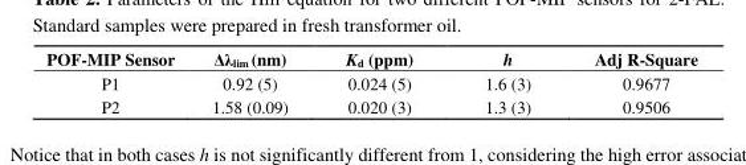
<table><thead><tr><td>POF-MIP Sensor</td><td>Δλ<sub>lim</sub> (nm)</td><td>Kd (ppm)</td><td>h</td><td>Adj R-Square</td></tr></thead><tbody><tr><td>P1</td><td>0.92 (5)</td><td>0.024 (5)</td><td>1.6 (3)</td><td>0.9677</td></tr><tr><td>P2</td><td>1.58 (0.09)</td><td>0.020 (3)</td><td>1.3 (3)</td><td>0.9506</td></tr></tbody></table>